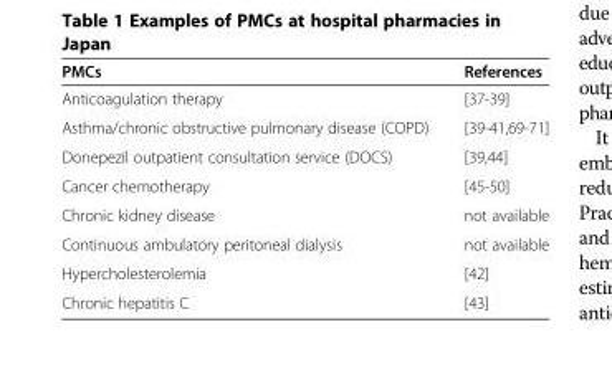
<table><thead><tr><td>PMCs</td><td>References</td></tr></thead><tbody><tr><td>Anticoagulation therapy</td><td>[37-39]</td></tr><tr><td>Asthma/chronic obstructive pulmonary disease (COPD)</td><td>[39-41,69-71]</td></tr><tr><td>Donepezil outpatient consultation service (DOCS)</td><td>[39,44]</td></tr><tr><td>Cancer chemotherapy</td><td>[45-50]</td></tr><tr><td>Chronic kidney disease</td><td>not available</td></tr><tr><td>Continuous ambulatory peritoneal dialysis</td><td>not available</td></tr><tr><td>Hypercholesterolemia</td><td>[42]</td></tr><tr><td>Chronic hepatitis C</td><td>[43]</td></tr></tbody></table>